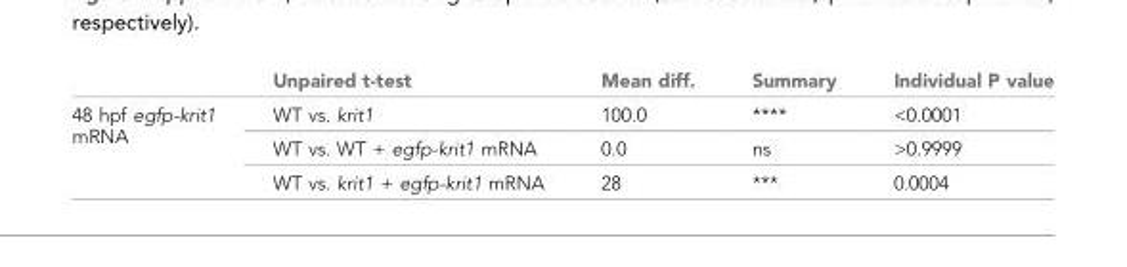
<table><thead><tr><td></td><td>Unpaired t-test</td><td>Mean diff.</td><td>Summary</td><td>Individual P value</td></tr></thead><tbody><tr><td rowspan="3">48 hpf egfp-krit1 mRNA</td><td>WT vs. krit1</td><td>100.0</td><td>****</td><td>&lt;0.0001</td></tr><tr><td>WT vs. WT + egfp-krit1 mRNA</td><td>0.0</td><td>ns</td><td>&gt;0.9999</td></tr><tr><td>WT vs. krit1 + egfp-krit1 mRNA</td><td>28</td><td>***</td><td>0.0004</td></tr></tbody></table>